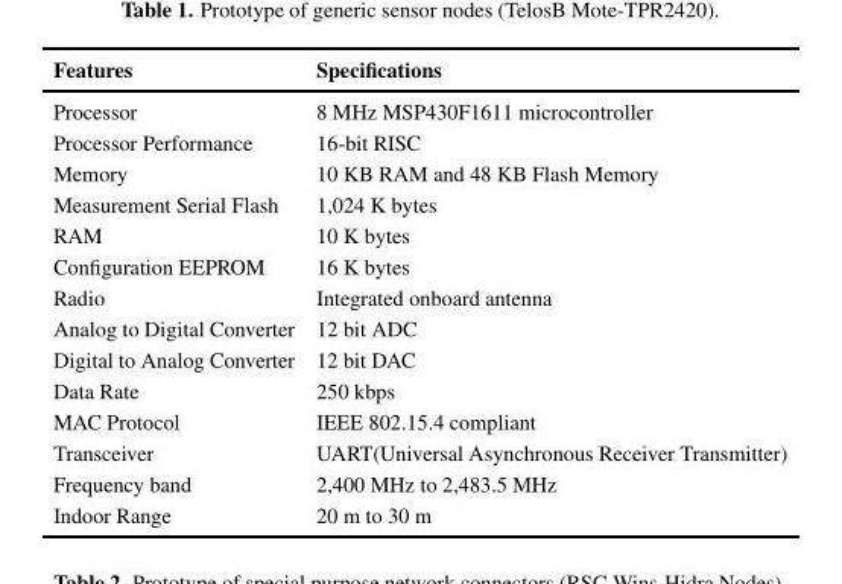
<table><thead><tr><td>Features</td><td>Specifications</td></tr></thead><tbody><tr><td>Processor</td><td>8 MHz MSP430F1611 microcontroller</td></tr><tr><td>Processor Performance</td><td>16-bit RISC</td></tr><tr><td>Memory</td><td>10 KB RAM and 48 KB Flash Memory</td></tr><tr><td>Measurement Serial Flash</td><td>1,024 K bytes</td></tr><tr><td>RAM</td><td>10 K bytes</td></tr><tr><td>Configuration EEPROM</td><td>16 K bytes</td></tr><tr><td>Radio</td><td>Integrated onboard antenna</td></tr><tr><td>Analog to Digital Converter</td><td>12 bit ADC</td></tr><tr><td>Digital to Analog Converter</td><td>12 bit DAC</td></tr><tr><td>Data Rate</td><td>250 kbps</td></tr><tr><td>MAC Protocol</td><td>IEEE 802.15.4 compliant</td></tr><tr><td>Transceiver</td><td>UART(Universal Asynchronous Receiver Transmitter)</td></tr><tr><td>Frequency band</td><td>2,400 MHz to 2,483.5 MHz</td></tr><tr><td>Indoor Range</td><td>20 m to 30 m</td></tr></tbody></table>